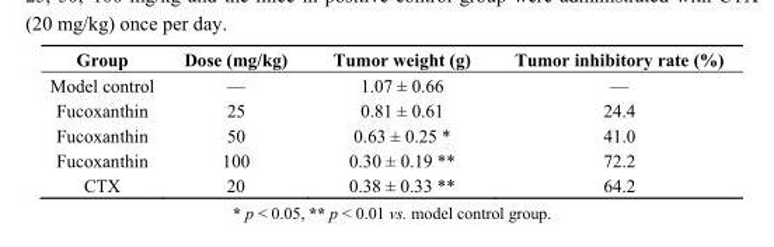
<table><thead><tr><td>Group</td><td>Dose (mg/kg)</td><td>Tumor weight (g)</td><td>Tumor inhibitory rate (%)</td></tr></thead><tbody><tr><td>Model control</td><td>—</td><td>1.07 ± 0.66</td><td>—</td></tr><tr><td>Fucoxanthin</td><td>25</td><td>0.81 ± 0.61</td><td>24.4</td></tr><tr><td>Fucoxanthin</td><td>50</td><td>0.63 ± 0.25 *</td><td>41.0</td></tr><tr><td>Fucoxanthin</td><td>100</td><td>0.30 ± 0.19 **</td><td>72.2</td></tr><tr><td>CTX</td><td>20</td><td>0.38 ± 0.33 **</td><td>64.2</td></tr></tbody></table>